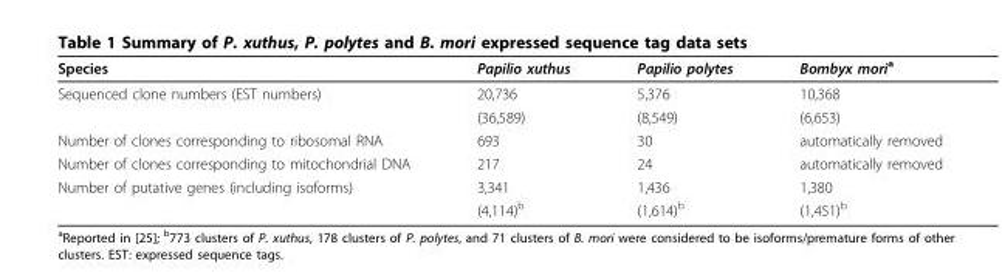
<table><thead><tr><td>Species</td><td>Papilio xuthus</td><td>Papilio polytes</td><td>Bombyx mori<sup>a</sup></td></tr></thead><tbody><tr><td rowspan="2">Sequenced clone numbers (EST numbers)</td><td>20,736</td><td>5,376</td><td>10,368</td></tr><tr><td>(36,589)</td><td>(8,549)</td><td>(6,653)</td></tr><tr><td>Number of clones corresponding to ribosomal RNA</td><td>693</td><td>30</td><td>automatically removed</td></tr><tr><td>Number of clones corresponding to mitochondrial DNA</td><td>217</td><td>24</td><td>automatically removed</td></tr><tr><td rowspan="2">Number of putative genes (including isoforms)</td><td>3,341</td><td>1,436</td><td>1,380</td></tr><tr><td>(4,114)<sup>b</sup></td><td>(1,614)<sup>b</sup></td><td>(1,451)<sup>b</sup></td></tr></tbody></table>